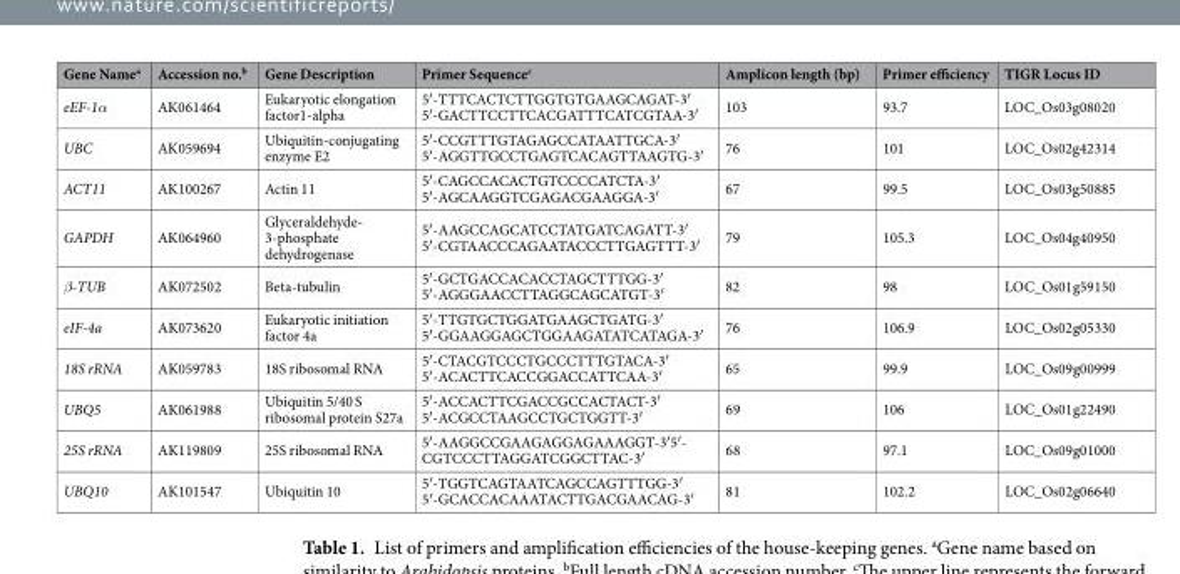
<table><thead><tr><td>Gene Name<sup>a</sup></td><td>Accession no.<sup>b</sup></td><td>Gene Description</td><td>Primer Sequence<sup>c</sup></td><td>Amplicon length (bp)</td><td>Primer efficiency</td><td>TIGR Locus ID</td></tr></thead><tbody><tr><td>eEF-1α</td><td>AK061464</td><td>Eukaryotic elongation factor1-alpha</td><td>5′-TTTCACTCTTGGTGTGAAGCAGAT-3′ 5′-GACTTCCTTCACGATTTCATCGTAA-3′</td><td>103</td><td>93.7</td><td>LOC_Os03g08020</td></tr><tr><td>UBC</td><td>AK059694</td><td>Ubiquitin-conjugating enzyme E2</td><td>5′-CCGTTTGTAGAGCCATAATTGCA-3′ 5′-AGGTTGCCTGAGTCACAGTTAAGTG-3′</td><td>76</td><td>101</td><td>LOC_Os02g42314</td></tr><tr><td>ACT11</td><td>AK100267</td><td>Actin 11</td><td>5′-CAGCCACACTGTCCCCATCTA-3′ 5′-AGCAAGGTCGAGACGAAGGA-3′</td><td>67</td><td>99.5</td><td>LOC_Os03g50885</td></tr><tr><td>GAPDH</td><td>AK064960</td><td>Glyceraldehyde- 3-phosphate dehydrogenase</td><td>5′-AAGCCAGCATCCTATGATCAGATT-3′ 5′-CGTAACCCAGAATACCCTTGAGTTT-3′</td><td>79</td><td>105.3</td><td>LOC_Os04g40950</td></tr><tr><td>β-TUB</td><td>AK072502</td><td>Beta-tubulin</td><td>5′-GCTGACCACACCTAGCTTTGG-3′ 5′-AGGGAACCTTAGGCAGCATGT-3′</td><td>82</td><td>98</td><td>LOC_Os01g59150</td></tr><tr><td>eIF-4a</td><td>AK073620</td><td>Eukaryotic initiation factor 4a</td><td>5′-TTGTGCTGGATGAAGCTGATG-3′ 5′-GGAAGGAGCTGGAAGATATCATAGA-3′</td><td>76</td><td>106.9</td><td>LOC_Os02g05330</td></tr><tr><td>18S rRNA</td><td>AK059783</td><td>18S ribosomal RNA</td><td>5′-CTACGTCCCTGCCCTTTGTACA-3′ 5′-ACACTTCACCGGACCATTCAA-3′</td><td>65</td><td>99.9</td><td>LOC_Os09g00999</td></tr><tr><td>UBQ5</td><td>AK061988</td><td>Ubiquitin 5/40 S ribosomal protein S27a</td><td>5′-ACCACTTCGACCGCCACTACT-3′ 5′-ACGCCTAAGCCTGCTGGTT-3′</td><td>69</td><td>106</td><td>LOC_Os01g22490</td></tr><tr><td>25S rRNA</td><td>AK119809</td><td>25S ribosomal RNA</td><td>5′-AAGGCCGAAGAGGAGAAAGGT-3′5′- CGTCCCTTAGGATCGGCTTAC-3′</td><td>68</td><td>97.1</td><td>LOC_Os09g01000</td></tr><tr><td>UBQ10</td><td>AK101547</td><td>Ubiquitin 10</td><td>5′-TGGTCAGTAATCAGCCAGTTTGG-3′ 5′-GCACCACAAATACTTGACGAACAG-3′</td><td>81</td><td>102.2</td><td>LOC_Os02g06640</td></tr></tbody></table>